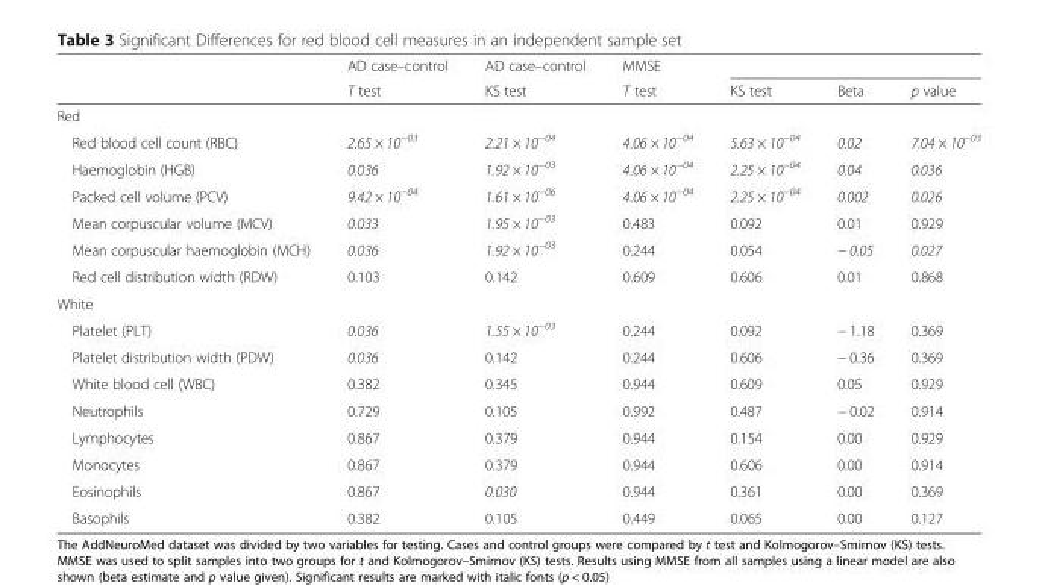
<table><thead><tr><td rowspan="2"></td><td rowspan="2">AD case–control T test</td><td rowspan="2">AD case–control KS test</td><td rowspan="2">MMSE T test</td><td rowspan="2">KS test</td><td rowspan="2">Beta</td><td rowspan="2">p value</td></tr><tr></tr></thead><tbody><tr><td colspan="7">Red</td></tr><tr><td>Red blood cell count (RBC)</td><td>2.65 × 10<sup>−03</sup></td><td>2.21 × 10<sup>−04</sup></td><td>4.06 × 10<sup>−04</sup></td><td>5.63 × 10<sup>−04</sup></td><td>0.02</td><td>7.04 × 10<sup>−03</sup></td></tr><tr><td>Haemoglobin (HGB)</td><td>0.036</td><td>1.92 × 10<sup>−03</sup></td><td>4.06 × 10<sup>−04</sup></td><td>2.25 × 10<sup>−04</sup></td><td>0.04</td><td>0.036</td></tr><tr><td>Packed cell volume (PCV)</td><td>9.42 × 10<sup>−04</sup></td><td>1.61 × 10<sup>−06</sup></td><td>4.06 × 10<sup>−04</sup></td><td>2.25 × 10<sup>−04</sup></td><td>0.002</td><td>0.026</td></tr><tr><td>Mean corpuscular volume (MCV)</td><td>0.033</td><td>1.95 × 10<sup>−03</sup></td><td>0.483</td><td>0.092</td><td>0.01</td><td>0.929</td></tr><tr><td>Mean corpuscular haemoglobin (MCH)</td><td>0.036</td><td>1.92 × 10<sup>−03</sup></td><td>0.244</td><td>0.054</td><td>− 0.05</td><td>0.027</td></tr><tr><td>Red cell distribution width (RDW)</td><td>0.103</td><td>0.142</td><td>0.609</td><td>0.606</td><td>0.01</td><td>0.868</td></tr><tr><td colspan="7">White</td></tr><tr><td>Platelet (PLT)</td><td>0.036</td><td>1.55 × 10<sup>−03</sup></td><td>0.244</td><td>0.092</td><td>− 1.18</td><td>0.369</td></tr><tr><td>Platelet distribution width (PDW)</td><td>0.036</td><td>0.142</td><td>0.244</td><td>0.606</td><td>− 0.36</td><td>0.369</td></tr><tr><td>White blood cell (WBC)</td><td>0.382</td><td>0.345</td><td>0.944</td><td>0.609</td><td>0.05</td><td>0.929</td></tr><tr><td>Neutrophils</td><td>0.729</td><td>0.105</td><td>0.992</td><td>0.487</td><td>− 0.02</td><td>0.914</td></tr><tr><td>Lymphocytes</td><td>0.867</td><td>0.379</td><td>0.944</td><td>0.154</td><td>0.00</td><td>0.929</td></tr><tr><td>Monocytes</td><td>0.867</td><td>0.379</td><td>0.944</td><td>0.606</td><td>0.00</td><td>0.914</td></tr><tr><td>Eosinophils</td><td>0.867</td><td>0.030</td><td>0.944</td><td>0.361</td><td>0.00</td><td>0.369</td></tr><tr><td>Basophils</td><td>0.382</td><td>0.105</td><td>0.449</td><td>0.065</td><td>0.00</td><td>0.127</td></tr></tbody></table>